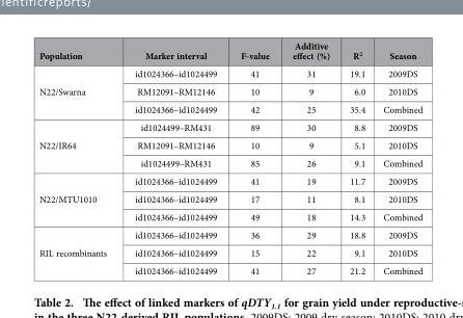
<table><thead><tr><td>Population</td><td>Marker interval</td><td>F-value</td><td>Additive effect (%)</td><td>R<sup>2</sup></td><td>Season</td></tr></thead><tbody><tr><td rowspan="3">N22/Swarna</td><td>id1024366–id1024499</td><td>41</td><td>31</td><td>19.1</td><td>2009DS</td></tr><tr><td>RM12091–RM12146</td><td>10</td><td>9</td><td>6.0</td><td>2010DS</td></tr><tr><td>id1024366–id1024499</td><td>42</td><td>25</td><td>35.4</td><td>Combined</td></tr><tr><td rowspan="3">N22/IR64</td><td>id1024499–RM431</td><td>89</td><td>30</td><td>8.8</td><td>2009DS</td></tr><tr><td>RM12091–RM12146</td><td>10</td><td>9</td><td>5.1</td><td>2010DS</td></tr><tr><td>id1024499–RM431</td><td>85</td><td>26</td><td>9.1</td><td>Combined</td></tr><tr><td rowspan="3">N22/MTU1010</td><td>id1024366–id1024499</td><td>41</td><td>19</td><td>11.7</td><td>2009DS</td></tr><tr><td>id1024366–id1024499</td><td>17</td><td>11</td><td>8.1</td><td>2010DS</td></tr><tr><td>id1024366–id1024499</td><td>49</td><td>18</td><td>14.3</td><td>Combined</td></tr><tr><td rowspan="3">RIL recombinants</td><td>id1024366–id1024499</td><td>36</td><td>29</td><td>18.8</td><td>2009DS</td></tr><tr><td>id1024366–id1024499</td><td>15</td><td>22</td><td>9.1</td><td>2010DS</td></tr><tr><td>id1024366–id1024499</td><td>41</td><td>27</td><td>21.2</td><td>Combined</td></tr></tbody></table>